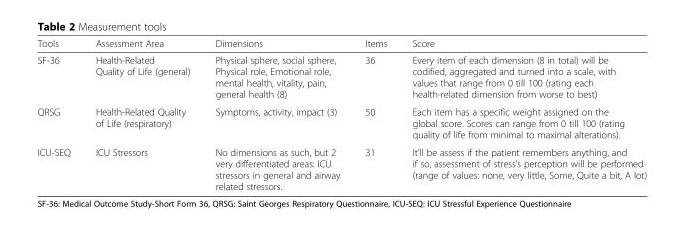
<table><thead><tr><td>Tools</td><td>Assessment Area</td><td>Dimensions</td><td>Items</td><td>Score</td></tr></thead><tbody><tr><td>SF-36</td><td>Health-Related Quality of Life (general)</td><td>Physical sphere, social sphere, Physical role, Emotional role, mental health, vitality, pain, general health (8)</td><td>36</td><td>Every item of each dimension (8 in total) will be codified, aggregated and turned into a scale, with values that range from 0 till 100 (rating each health-related dimension from worse to best)</td></tr><tr><td>QRSG</td><td>Health-Related Quality of Life (respiratory)</td><td>Symptoms, activity, impact (3)</td><td>50</td><td>Each item has a specific weight assigned on the global score. Scores can range from 0 till 100 (rating quality of life from minimal to maximal alterations).</td></tr><tr><td>ICU-SEQ</td><td>ICU Stressors</td><td>No dimensions as such, but 2 very differentiated areas: ICU stressors in general and airway related stressors.</td><td>31</td><td>It’ll be assess if the patient remembers anything, and if so, assessment of stress’s perception will be performed (range of values: none, very little, Some, Quite a bit, A lot)</td></tr></tbody></table>